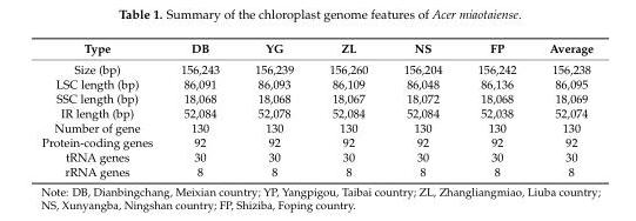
<table><thead><tr><td>Type</td><td>DB</td><td>YG</td><td>ZL</td><td>NS</td><td>FP</td><td>Average</td></tr></thead><tbody><tr><td>Size (bp)</td><td>156,243</td><td>156,239</td><td>156,260</td><td>156,204</td><td>156,242</td><td>156,238</td></tr><tr><td>LSC length (bp)</td><td>86,091</td><td>86,093</td><td>86,109</td><td>86,048</td><td>86,136</td><td>86,095</td></tr><tr><td>SSC length (bp)</td><td>18,068</td><td>18,068</td><td>18,067</td><td>18,072</td><td>18,068</td><td>18,069</td></tr><tr><td>IR length (bp)</td><td>52,084</td><td>52,078</td><td>52,084</td><td>52,084</td><td>52,038</td><td>52,074</td></tr><tr><td>Number of gene</td><td>130</td><td>130</td><td>130</td><td>130</td><td>130</td><td>130</td></tr><tr><td>Protein-coding genes</td><td>92</td><td>92</td><td>92</td><td>92</td><td>92</td><td>92</td></tr><tr><td>tRNA genes</td><td>30</td><td>30</td><td>30</td><td>30</td><td>30</td><td>30</td></tr><tr><td>rRNA genes</td><td>8</td><td>8</td><td>8</td><td>8</td><td>8</td><td>8</td></tr></tbody></table>